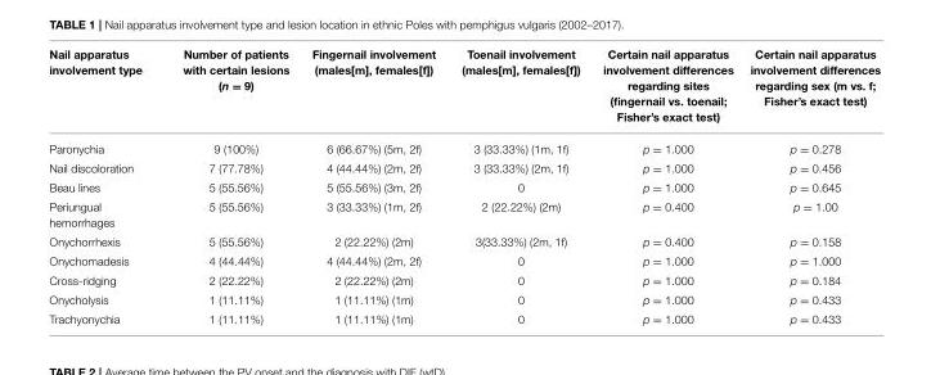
<table><thead><tr><td>Nail apparatus involvement type</td><td>Number of patients with certain lesions (n = 9)</td><td>Fingernail involvement (males[m], females[f])</td><td>Toenail involvement (males[m], females[f])</td><td>Certain nail apparatus involvement differences regarding sites (fingernail vs. toenail; Fisher’s exact test)</td><td>Certain nail apparatus involvement differences regarding sex (m vs. f; Fisher’s exact test)</td></tr></thead><tbody><tr><td>Paronychia</td><td>9 (100%)</td><td>6 (66.67%) (5m, 2f)</td><td>3 (33.33%) (1m, 1f)</td><td>p = 1.000</td><td>p = 0.278</td></tr><tr><td>Nail discoloration</td><td>7 (77.78%)</td><td>4 (44.44%) (2m, 2f)</td><td>3 (33.33%) (2m, 1f)</td><td>p = 1.000</td><td>p = 0.456</td></tr><tr><td>Beau lines</td><td>5 (55.56%)</td><td>5 (55.56%) (3m, 2f)</td><td>0</td><td>p = 1.000</td><td>p = 0.645</td></tr><tr><td>Periungual hemorrhages</td><td>5 (55.56%)</td><td>3 (33.33%) (1m, 2f)</td><td>2 (22.22%) (2m)</td><td>p = 0.400</td><td>p = 1.00</td></tr><tr><td>Onychorrhexis</td><td>5 (55.56%)</td><td>2 (22.22%) (2m)</td><td>3(33.33%) (2m, 1f)</td><td>p = 0.400</td><td>p = 0.158</td></tr><tr><td>Onychomadesis</td><td>4 (44.44%)</td><td>4 (44.44%) (2m, 2f)</td><td>0</td><td>p = 1.000</td><td>p = 1.000</td></tr><tr><td>Cross-ridging</td><td>2 (22.22%)</td><td>2 (22.22%) (2m)</td><td>0</td><td>p = 1.000</td><td>p = 0.184</td></tr><tr><td>Onycholysis</td><td>1 (11.11%)</td><td>1 (11.11%) (1m)</td><td>0</td><td>p = 1.000</td><td>p = 0.433</td></tr><tr><td>Trachyonychia</td><td>1 (11.11%)</td><td>1 (11.11%) (1m)</td><td>0</td><td>p = 1.000</td><td>p = 0.433</td></tr></tbody></table>